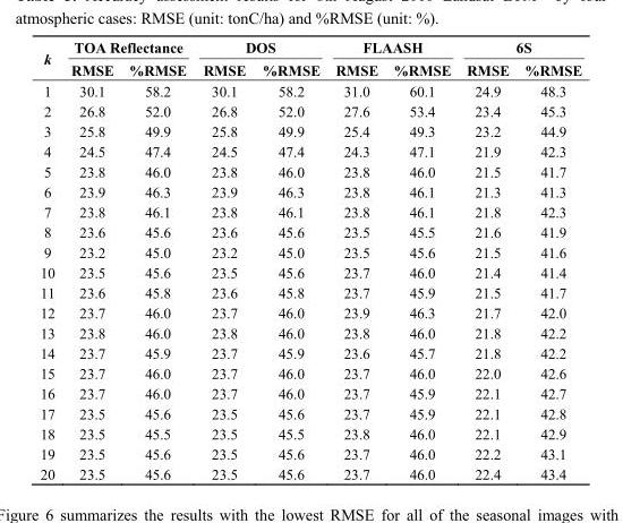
<table><thead><tr><td rowspan="2">k</td><td colspan="2">TOA Reflectance</td><td colspan="2">DOS</td><td colspan="2">FLAASH</td><td colspan="2">6S</td></tr><tr><td>RMSE</td><td>%RMSE</td><td>RMSE</td><td>%RMSE</td><td>RMSE</td><td>%RMSE</td><td>RMSE</td><td>%RMSE</td></tr></thead><tbody><tr><td>1</td><td>30.1</td><td>58.2</td><td>30.1</td><td>58.2</td><td>31.0</td><td>60.1</td><td>24.9</td><td>48.3</td></tr><tr><td>2</td><td>26.8</td><td>52.0</td><td>26.8</td><td>52.0</td><td>27.6</td><td>53.4</td><td>23.4</td><td>45.3</td></tr><tr><td>3</td><td>25.8</td><td>49.9</td><td>25.8</td><td>49.9</td><td>25.4</td><td>49.3</td><td>23.2</td><td>44.9</td></tr><tr><td>4</td><td>24.5</td><td>47.4</td><td>24.5</td><td>47.4</td><td>24.3</td><td>47.1</td><td>21.9</td><td>42.3</td></tr><tr><td>5</td><td>23.8</td><td>46.0</td><td>23.8</td><td>46.0</td><td>23.8</td><td>46.0</td><td>21.5</td><td>41.7</td></tr><tr><td>6</td><td>23.9</td><td>46.3</td><td>23.9</td><td>46.3</td><td>23.8</td><td>46.1</td><td>21.3</td><td>41.3</td></tr><tr><td>7</td><td>23.8</td><td>46.1</td><td>23.8</td><td>46.1</td><td>23.8</td><td>46.1</td><td>21.8</td><td>42.3</td></tr><tr><td>8</td><td>23.6</td><td>45.6</td><td>23.6</td><td>45.6</td><td>23.5</td><td>45.5</td><td>21.6</td><td>41.9</td></tr><tr><td>9</td><td>23.2</td><td>45.0</td><td>23.2</td><td>45.0</td><td>23.5</td><td>45.6</td><td>21.5</td><td>41.6</td></tr><tr><td>10</td><td>23.5</td><td>45.6</td><td>23.5</td><td>45.6</td><td>23.7</td><td>46.0</td><td>21.4</td><td>41.4</td></tr><tr><td>11</td><td>23.6</td><td>45.8</td><td>23.6</td><td>45.8</td><td>23.7</td><td>45.9</td><td>21.5</td><td>41.7</td></tr><tr><td>12</td><td>23.7</td><td>46.0</td><td>23.7</td><td>46.0</td><td>23.9</td><td>46.3</td><td>21.7</td><td>42.0</td></tr><tr><td>13</td><td>23.8</td><td>46.0</td><td>23.8</td><td>46.0</td><td>23.8</td><td>46.0</td><td>21.8</td><td>42.2</td></tr><tr><td>14</td><td>23.7</td><td>45.9</td><td>23.7</td><td>45.9</td><td>23.6</td><td>45.7</td><td>21.8</td><td>42.2</td></tr><tr><td>15</td><td>23.7</td><td>46.0</td><td>23.7</td><td>46.0</td><td>23.7</td><td>46.0</td><td>22.0</td><td>42.6</td></tr><tr><td>16</td><td>23.7</td><td>46.0</td><td>23.7</td><td>46.0</td><td>23.7</td><td>45.9</td><td>22.1</td><td>42.7</td></tr><tr><td>17</td><td>23.5</td><td>45.6</td><td>23.5</td><td>45.6</td><td>23.7</td><td>45.9</td><td>22.1</td><td>42.8</td></tr><tr><td>18</td><td>23.5</td><td>45.5</td><td>23.5</td><td>45.5</td><td>23.8</td><td>46.0</td><td>22.1</td><td>42.9</td></tr><tr><td>19</td><td>23.5</td><td>45.6</td><td>23.5</td><td>45.6</td><td>23.7</td><td>46.0</td><td>22.2</td><td>43.1</td></tr><tr><td>20</td><td>23.5</td><td>45.6</td><td>23.5</td><td>45.6</td><td>23.7</td><td>46.0</td><td>22.4</td><td>43.4</td></tr></tbody></table>